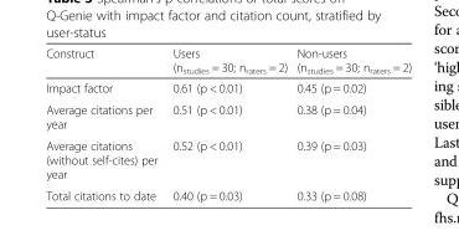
<table><thead><tr><td>Construct</td><td>Users (n<sub>studies</sub> = 30; n<sub>raters</sub> = 2)</td><td>Non-users (n<sub>studies</sub> = 30; n<sub>raters</sub> = 2)</td></tr></thead><tbody><tr><td>Impact factor</td><td>0.61 (p &lt; 0.01)</td><td>0.45 (p = 0.02)</td></tr><tr><td>Average citations per year</td><td>0.51 (p &lt; 0.01)</td><td>0.38 (p = 0.04)</td></tr><tr><td>Average citations (without self-cites) per year</td><td>0.52 (p &lt; 0.01)</td><td>0.39 (p = 0.03)</td></tr><tr><td>Total citations to date</td><td>0.40 (p = 0.03)</td><td>0.33 (p = 0.08)</td></tr></tbody></table>